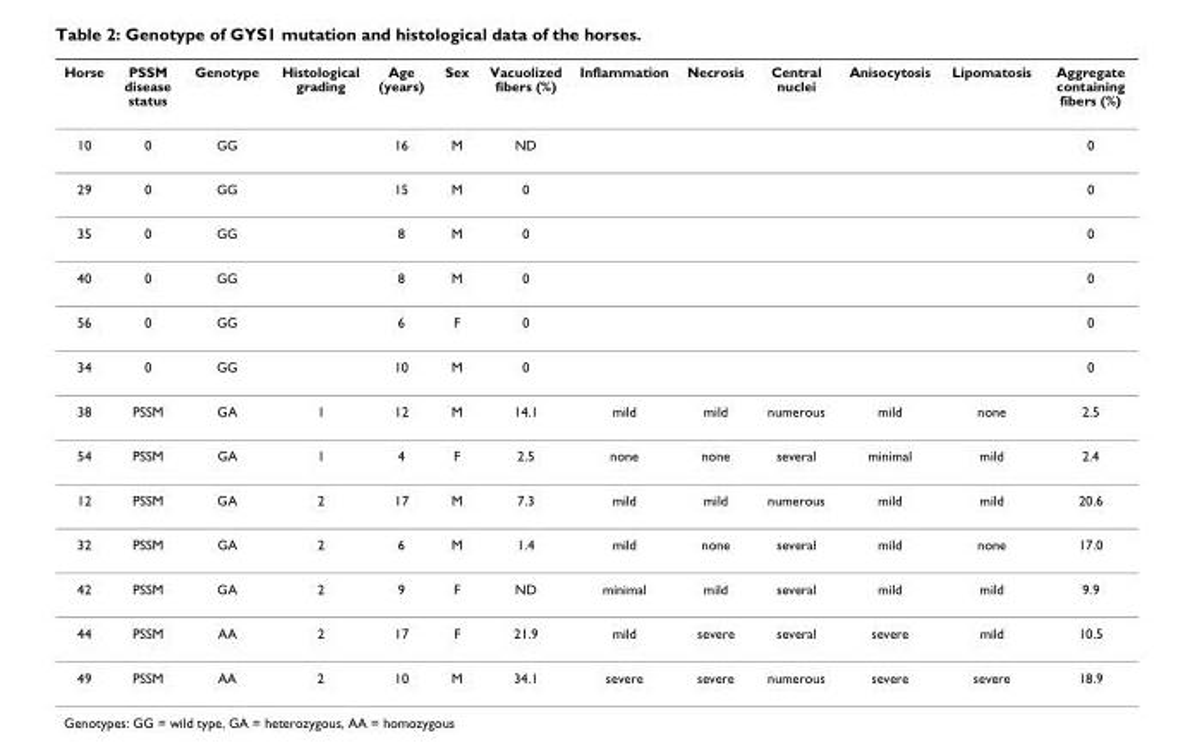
<table><thead><tr><td>Horse</td><td>PSSM disease status</td><td>Genotype</td><td>Histological grading</td><td>Age (years)</td><td>Sex</td><td>Vacuolized fibers (%)</td><td>Inflammation</td><td>Necrosis</td><td>Central nuclei</td><td>Anisocytosis</td><td>Lipomatosis</td><td>Aggregate containing fibers (%)</td></tr></thead><tbody><tr><td>10</td><td>0</td><td>GG</td><td></td><td>16</td><td>M</td><td>ND</td><td></td><td></td><td></td><td></td><td></td><td>0</td></tr><tr><td>29</td><td>0</td><td>GG</td><td></td><td>15</td><td>M</td><td>0</td><td></td><td></td><td></td><td></td><td></td><td>0</td></tr><tr><td>35</td><td>0</td><td>GG</td><td></td><td>8</td><td>M</td><td>0</td><td></td><td></td><td></td><td></td><td></td><td>0</td></tr><tr><td>40</td><td>0</td><td>GG</td><td></td><td>8</td><td>M</td><td>0</td><td></td><td></td><td></td><td></td><td></td><td>0</td></tr><tr><td>56</td><td>0</td><td>GG</td><td></td><td>6</td><td>F</td><td>0</td><td></td><td></td><td></td><td></td><td></td><td>0</td></tr><tr><td>34</td><td>0</td><td>GG</td><td></td><td>10</td><td>M</td><td>0</td><td></td><td></td><td></td><td></td><td></td><td>0</td></tr><tr><td>38</td><td>PSSM</td><td>GA</td><td>1</td><td>12</td><td>M</td><td>14.1</td><td>mild</td><td>mild</td><td>numerous</td><td>mild</td><td>none</td><td>2.5</td></tr><tr><td>54</td><td>PSSM</td><td>GA</td><td>1</td><td>4</td><td>F</td><td>2.5</td><td>none</td><td>none</td><td>several</td><td>minimal</td><td>mild</td><td>2.4</td></tr><tr><td>12</td><td>PSSM</td><td>GA</td><td>2</td><td>17</td><td>M</td><td>7.3</td><td>mild</td><td>mild</td><td>numerous</td><td>mild</td><td>mild</td><td>20.6</td></tr><tr><td>32</td><td>PSSM</td><td>GA</td><td>2</td><td>6</td><td>M</td><td>1.4</td><td>mild</td><td>none</td><td>several</td><td>mild</td><td>none</td><td>17.0</td></tr><tr><td>42</td><td>PSSM</td><td>GA</td><td>2</td><td>9</td><td>F</td><td>ND</td><td>minimal</td><td>mild</td><td>several</td><td>mild</td><td>mild</td><td>9.9</td></tr><tr><td>44</td><td>PSSM</td><td>AA</td><td>2</td><td>17</td><td>F</td><td>21.9</td><td>mild</td><td>severe</td><td>several</td><td>severe</td><td>mild</td><td>10.5</td></tr><tr><td>49</td><td>PSSM</td><td>AA</td><td>2</td><td>10</td><td>M</td><td>34.1</td><td>severe</td><td>severe</td><td>numerous</td><td>severe</td><td>severe</td><td>18.9</td></tr></tbody></table>